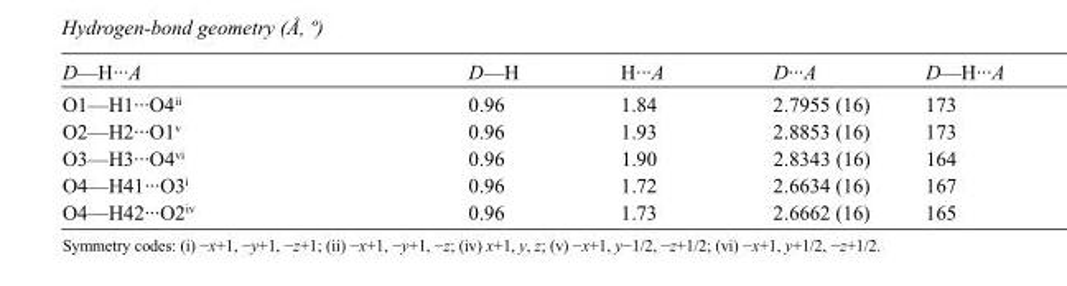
<table><tbody><tr><td>D—H···A</td><td>D—H</td><td>H···A</td><td>D···A</td><td>D—H···A</td></tr><tr><td>O1—H1···O4<sup>ii</sup></td><td>0.96</td><td>1.84</td><td>2.7955 (16)</td><td>173</td></tr><tr><td>O2—H2···O1<sup>v</sup></td><td>0.96</td><td>1.93</td><td>2.8853 (16)</td><td>173</td></tr><tr><td>O3—H3···O4<sup>vi</sup></td><td>0.96</td><td>1.90</td><td>2.8343 (16)</td><td>164</td></tr><tr><td>O4—H41···O3<sup>i</sup></td><td>0.96</td><td>1.72</td><td>2.6634 (16)</td><td>167</td></tr><tr><td>O4—H42···O2<sup>iv</sup></td><td>0.96</td><td>1.73</td><td>2.6662 (16)</td><td>165</td></tr></tbody></table>